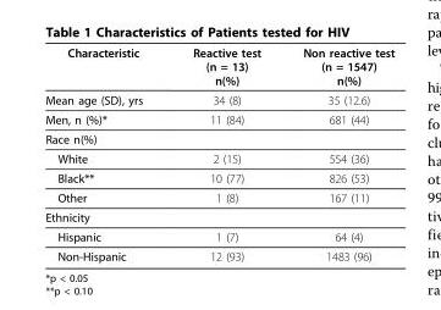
<table><thead><tr><td>Characteristic</td><td>Reactive test (n = 13) n(%)</td><td>Non reactive test (n = 1547) n(%)</td></tr></thead><tbody><tr><td>Mean age (SD), yrs</td><td>34 (8)</td><td>35 (12.6)</td></tr><tr><td>Men, n (%)*</td><td>11 (84)</td><td>681 (44)</td></tr><tr><td colspan="3">Race n(%)</td></tr><tr><td>White</td><td>2 (15)</td><td>554 (36)</td></tr><tr><td>Black**</td><td>10 (77)</td><td>826 (53)</td></tr><tr><td>Other</td><td>1 (8)</td><td>167 (11)</td></tr><tr><td colspan="3">Ethnicity</td></tr><tr><td>Hispanic</td><td>1 (7)</td><td>64 (4)</td></tr><tr><td>Non-Hispanic</td><td>12 (93)</td><td>1483 (96)</td></tr></tbody></table>